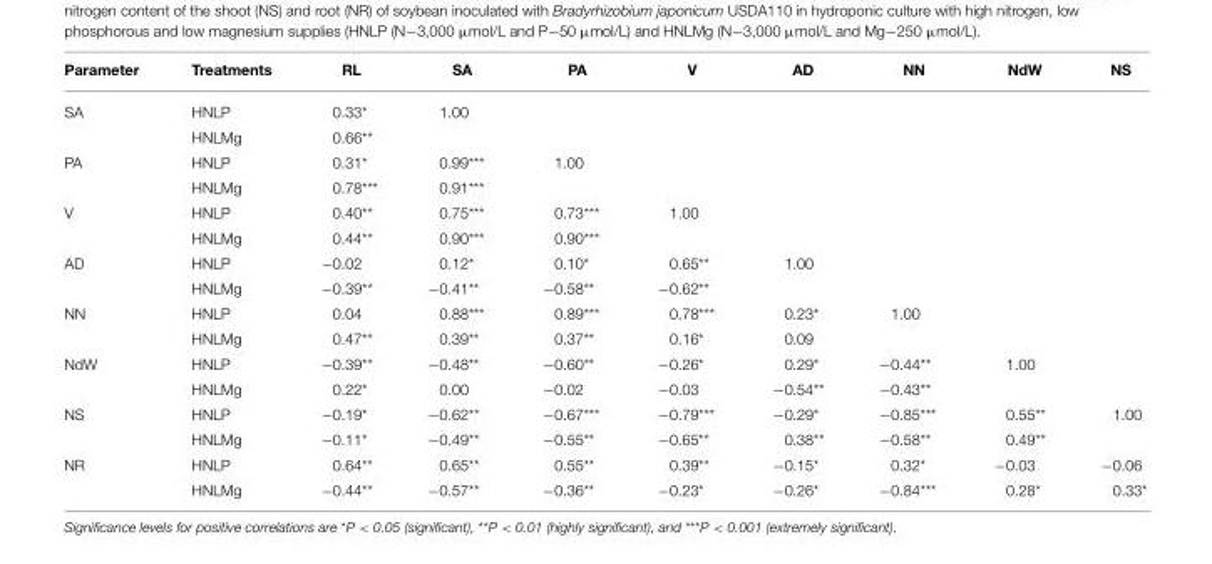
<table><thead><tr><td>Parameter</td><td>Treatments</td><td>RL</td><td>SA</td><td>PA</td><td>V</td><td>AD</td><td>NN</td><td>NdW</td><td>NS</td></tr></thead><tbody><tr><td rowspan="2">SA</td><td>HNLP</td><td>0.33*</td><td>1.00</td><td></td><td></td><td></td><td></td><td></td><td></td></tr><tr><td>HNLMg</td><td>0.66**</td><td></td><td></td><td></td><td></td><td></td><td></td><td></td></tr><tr><td rowspan="2">PA</td><td>HNLP</td><td>0.31*</td><td>0.99***</td><td>1.00</td><td></td><td></td><td></td><td></td><td></td></tr><tr><td>HNLMg</td><td>0.78***</td><td>0.91***</td><td></td><td></td><td></td><td></td><td></td><td></td></tr><tr><td rowspan="2">V</td><td>HNLP</td><td>0.40**</td><td>0.75***</td><td>0.73***</td><td>1.00</td><td></td><td></td><td></td><td></td></tr><tr><td>HNLMg</td><td>0.44**</td><td>0.90***</td><td>0.90***</td><td></td><td></td><td></td><td></td><td></td></tr><tr><td rowspan="2">AD</td><td>HNLP</td><td>−0.02</td><td>0.12*</td><td>0.10*</td><td>0.65**</td><td>1.00</td><td></td><td></td><td></td></tr><tr><td>HNLMg</td><td>−0.39**</td><td>−0.41**</td><td>−0.58**</td><td>−0.62**</td><td></td><td></td><td></td><td></td></tr><tr><td rowspan="2">NN</td><td>HNLP</td><td>0.04</td><td>0.88***</td><td>0.89***</td><td>0.78***</td><td>0.23*</td><td>1.00</td><td></td><td></td></tr><tr><td>HNLMg</td><td>0.47**</td><td>0.39**</td><td>0.37**</td><td>0.16*</td><td>0.09</td><td></td><td></td><td></td></tr><tr><td rowspan="2">NdW</td><td>HNLP</td><td>−0.39**</td><td>−0.48**</td><td>−0.60**</td><td>−0.26*</td><td>0.29*</td><td>−0.44**</td><td>1.00</td><td></td></tr><tr><td>HNLMg</td><td>0.22*</td><td>0.00</td><td>−0.02</td><td>−0.03</td><td>−0.54**</td><td>−0.43**</td><td></td><td></td></tr><tr><td rowspan="2">NS</td><td>HNLP</td><td>−0.19*</td><td>−0.62**</td><td>−0.67***</td><td>−0.79***</td><td>−0.29*</td><td>−0.85***</td><td>0.55**</td><td>1.00</td></tr><tr><td>HNLMg</td><td>−0.11*</td><td>−0.49**</td><td>−0.55**</td><td>−0.65**</td><td>0.38**</td><td>−0.58**</td><td>0.49**</td><td></td></tr><tr><td rowspan="2">NR</td><td>HNLP</td><td>0.64**</td><td>0.65**</td><td>0.55**</td><td>0.39**</td><td>−0.15*</td><td>0.32*</td><td>−0.03</td><td>−0.06</td></tr><tr><td>HNLMg</td><td>−0.44**</td><td>−0.57**</td><td>−0.36**</td><td>−0.23*</td><td>−0.26*</td><td>−0.84***</td><td>0.28*</td><td>0.33*</td></tr></tbody></table>